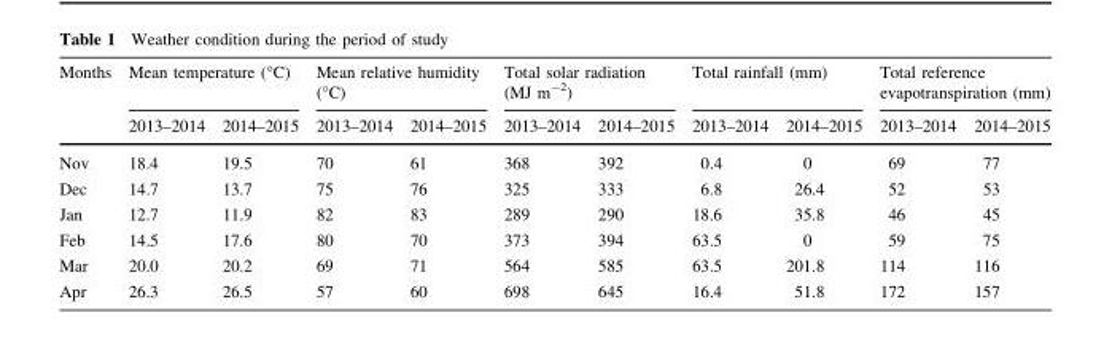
<table><thead><tr><td rowspan="2">Months</td><td colspan="2">Mean temperature (°C)</td><td colspan="2">Mean relative humidity (°C)</td><td colspan="2">Total solar radiation (MJ m<sup>-2</sup>)</td><td colspan="2">Total rainfall (mm)</td><td colspan="2">Total reference evapotranspiration (mm)</td></tr><tr><td>2013–2014</td><td>2014–2015</td><td>2013–2014</td><td>2014–2015</td><td>2013–2014</td><td>2014–2015</td><td>2013–2014</td><td>2014–2015</td><td>2013–2014</td><td>2014–2015</td></tr></thead><tbody><tr><td>Nov</td><td>18.4</td><td>19.5</td><td>70</td><td>61</td><td>368</td><td>392</td><td>0.4</td><td>0</td><td>69</td><td>77</td></tr><tr><td>Dec</td><td>14.7</td><td>13.7</td><td>75</td><td>76</td><td>325</td><td>333</td><td>6.8</td><td>26.4</td><td>52</td><td>53</td></tr><tr><td>Jan</td><td>12.7</td><td>11.9</td><td>82</td><td>83</td><td>289</td><td>290</td><td>18.6</td><td>35.8</td><td>46</td><td>45</td></tr><tr><td>Feb</td><td>14.5</td><td>17.6</td><td>80</td><td>70</td><td>373</td><td>394</td><td>63.5</td><td>0</td><td>59</td><td>75</td></tr><tr><td>Mar</td><td>20.0</td><td>20.2</td><td>69</td><td>71</td><td>564</td><td>585</td><td>63.5</td><td>201.8</td><td>114</td><td>116</td></tr><tr><td>Apr</td><td>26.3</td><td>26.5</td><td>57</td><td>60</td><td>698</td><td>645</td><td>16.4</td><td>51.8</td><td>172</td><td>157</td></tr></tbody></table>